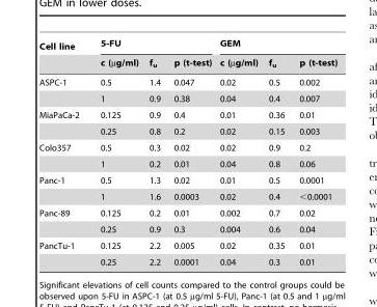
<table><thead><tr><td rowspan="2">Cell line</td><td colspan="3">5-FU</td><td colspan="3">GEM</td></tr><tr><td>c (µg/ml)</td><td>f<sub>u</sub></td><td>p (t-test)</td><td>c (µg/ml)</td><td>f<sub>u</sub></td><td>p (t-test)</td></tr></thead><tbody><tr><td rowspan="2">ASPC-1</td><td>0.5</td><td>1.4</td><td>0.047</td><td>0.02</td><td>0.5</td><td>0.002</td></tr><tr><td>1</td><td>0.9</td><td>0.38</td><td>0.04</td><td>0.4</td><td>0.007</td></tr><tr><td rowspan="2">MiaPaCa-2</td><td>0.125</td><td>0.9</td><td>0.4</td><td>0.01</td><td>0.36</td><td>0.01</td></tr><tr><td>0.25</td><td>0.8</td><td>0.2</td><td>0.02</td><td>0.15</td><td>0.003</td></tr><tr><td rowspan="2">Colo357</td><td>0.5</td><td>0.3</td><td>0.02</td><td>0.02</td><td>0.9</td><td>0.2</td></tr><tr><td>1</td><td>0.2</td><td>0.01</td><td>0.04</td><td>0.8</td><td>0.06</td></tr><tr><td rowspan="2">Panc-1</td><td>0.5</td><td>1.3</td><td>0.02</td><td>0.01</td><td>0.5</td><td>0.0001</td></tr><tr><td>1</td><td>1.6</td><td>0.0003</td><td>0.02</td><td>0.4</td><td>&lt;0.0001</td></tr><tr><td rowspan="2">Panc-89</td><td>0.125</td><td>0.2</td><td>0.01</td><td>0.002</td><td>0.7</td><td>0.02</td></tr><tr><td>0.25</td><td>0.9</td><td>0.3</td><td>0.004</td><td>0.6</td><td>0.04</td></tr><tr><td rowspan="2">PancTu-1</td><td>0.125</td><td>2.2</td><td>0.005</td><td>0.02</td><td>0.35</td><td>0.01</td></tr><tr><td>0.25</td><td>2.2</td><td>0.0001</td><td>0.04</td><td>0.3</td><td>0.01</td></tr></tbody></table>